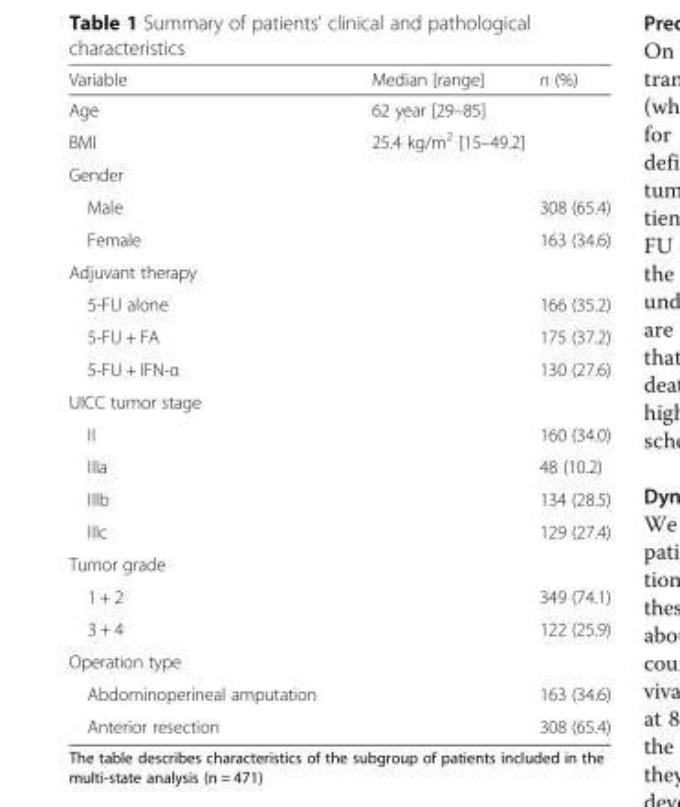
<table><thead><tr><td>Variable</td><td>Median [range]</td><td>n (%)</td></tr></thead><tbody><tr><td>Age</td><td colspan="2">62 year [29–85]</td></tr><tr><td>BMI</td><td colspan="2">25.4 kg/m<sup>2</sup> [15–49.2]</td></tr><tr><td colspan="3">Gender</td></tr><tr><td>Male</td><td></td><td>308 (65.4)</td></tr><tr><td>Female</td><td></td><td>163 (34.6)</td></tr><tr><td colspan="3">Adjuvant therapy</td></tr><tr><td>5-FU alone</td><td></td><td>166 (35.2)</td></tr><tr><td>5-FU + FA</td><td></td><td>175 (37.2)</td></tr><tr><td>5-FU + IFN-α</td><td></td><td>130 (27.6)</td></tr><tr><td colspan="3">UICC tumor stage</td></tr><tr><td>II</td><td></td><td>160 (34.0)</td></tr><tr><td>IIIa</td><td></td><td>48 (10.2)</td></tr><tr><td>IIIb</td><td></td><td>134 (28.5)</td></tr><tr><td>IIIc</td><td></td><td>129 (27.4)</td></tr><tr><td colspan="3">Tumor grade</td></tr><tr><td>1 + 2</td><td></td><td>349 (74.1)</td></tr><tr><td>3 + 4</td><td></td><td>122 (25.9)</td></tr><tr><td colspan="3">Operation type</td></tr><tr><td>Abdominoperineal amputation</td><td></td><td>163 (34.6)</td></tr><tr><td>Anterior resection</td><td></td><td>308 (65.4)</td></tr></tbody></table>